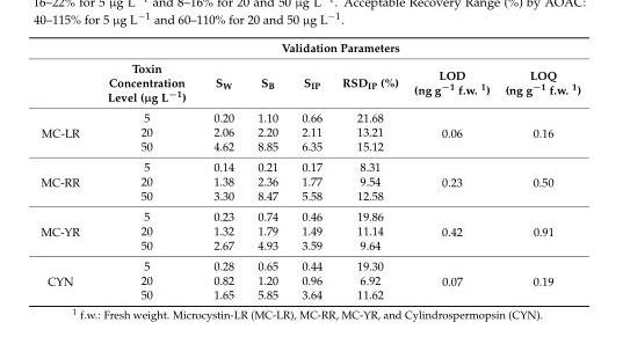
<table><thead><tr><td rowspan="2"></td><td colspan="7">Validation Parameters</td></tr><tr><td>Toxin Concentration Level (µg L<sup>−1</sup>)</td><td>S<sub>W</sub></td><td>S<sub>B</sub></td><td>S<sub>IP</sub></td><td>RSD<sub>IP</sub> (%)</td><td>LOD (ng g<sup>−1</sup> f.w. <sup>1</sup>)</td><td>LOQ (ng g<sup>−1</sup> f.w. <sup>1</sup>)</td></tr></thead><tbody><tr><td rowspan="3">MC-LR</td><td>5</td><td>0.20</td><td>1.10</td><td>0.66</td><td>21.68</td><td rowspan="3">0.06</td><td rowspan="3">0.16</td></tr><tr><td>20</td><td>2.06</td><td>2.20</td><td>2.11</td><td>13.21</td></tr><tr><td>50</td><td>4.62</td><td>8.85</td><td>6.35</td><td>15.12</td></tr><tr><td rowspan="3">MC-RR</td><td>5</td><td>0.14</td><td>0.21</td><td>0.17</td><td>8.31</td><td rowspan="3">0.23</td><td rowspan="3">0.50</td></tr><tr><td>20</td><td>1.38</td><td>2.36</td><td>1.77</td><td>9.54</td></tr><tr><td>50</td><td>3.30</td><td>8.47</td><td>5.58</td><td>12.58</td></tr><tr><td rowspan="3">MC-YR</td><td>5</td><td>0.23</td><td>0.74</td><td>0.46</td><td>19.86</td><td rowspan="3">0.42</td><td rowspan="3">0.91</td></tr><tr><td>20</td><td>1.32</td><td>1.79</td><td>1.49</td><td>11.14</td></tr><tr><td>50</td><td>2.67</td><td>4.93</td><td>3.59</td><td>9.64</td></tr><tr><td rowspan="3">CYN</td><td>5</td><td>0.28</td><td>0.65</td><td>0.44</td><td>19.30</td><td rowspan="3">0.07</td><td rowspan="3">0.19</td></tr><tr><td>20</td><td>0.82</td><td>1.20</td><td>0.96</td><td>6.92</td></tr><tr><td>50</td><td>1.65</td><td>5.85</td><td>3.64</td><td>11.62</td></tr></tbody></table>